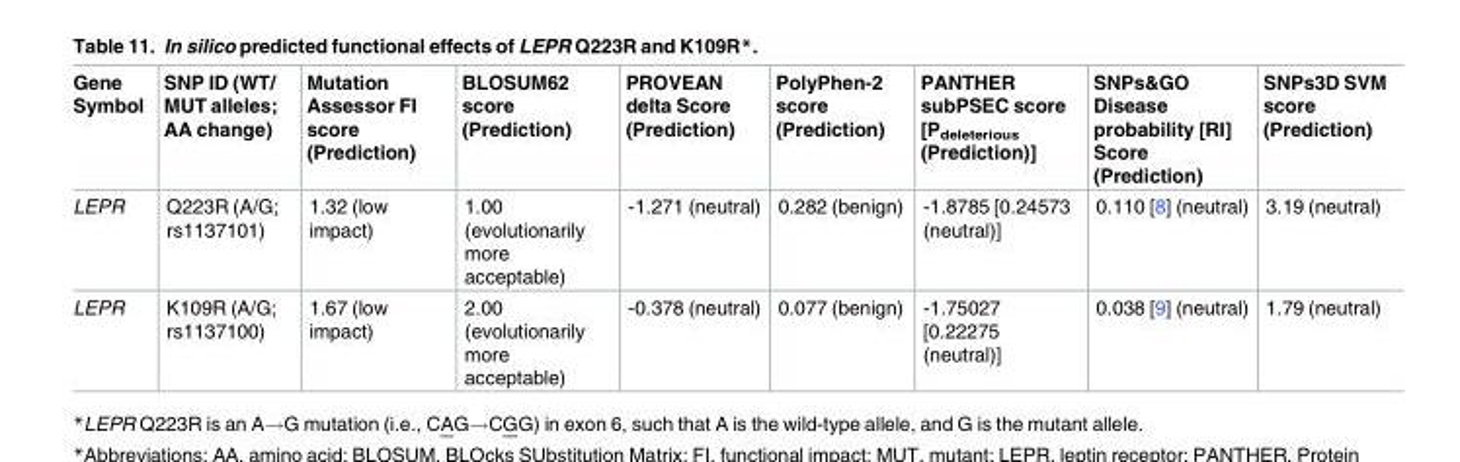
<table><thead><tr><td>Gene Symbol</td><td>SNP ID (WT/ MUT alleles; AA change)</td><td>Mutation Assessor FI score (Prediction)</td><td>BLOSUM62 score (Prediction)</td><td>PROVEAN delta Score (Prediction)</td><td>PolyPhen-2 score (Prediction)</td><td>PANTHER subPSEC score [P<sub>deleterious</sub> (Prediction)]</td><td>SNPs&amp;GO Disease probability [RI] Score (Prediction)</td><td>SNPs3D SVM score (Prediction)</td></tr></thead><tbody><tr><td>LEPR</td><td>Q223R (A/G; rs1137101)</td><td>1.32 (low impact)</td><td>1.00 (evolutionarily more acceptable)</td><td>-1.271 (neutral)</td><td>0.282 (benign)</td><td>-1.8785 [0.24573 (neutral)]</td><td>0.110 [8] (neutral)</td><td>3.19 (neutral)</td></tr><tr><td>LEPR</td><td>K109R (A/G; rs1137100)</td><td>1.67 (low impact)</td><td>2.00 (evolutionarily more acceptable)</td><td>-0.378 (neutral)</td><td>0.077 (benign)</td><td>-1.75027 [0.22275 (neutral)]</td><td>0.038 [9] (neutral)</td><td>1.79 (neutral)</td></tr></tbody></table>